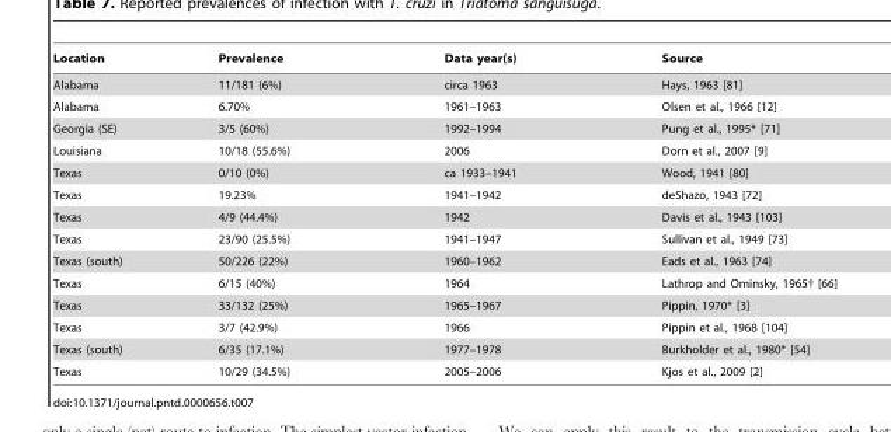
<table><thead><tr><td>Location</td><td>Prevalence</td><td>Data year(s)</td><td>Source</td></tr></thead><tbody><tr><td>Alabama</td><td>11/181 (6%)</td><td>circa 1963</td><td>Hays, 1963 [81]</td></tr><tr><td>Alabama</td><td>6.70%</td><td>1961–1963</td><td>Olsen et al., 1966 [12]</td></tr><tr><td>Georgia (SE)</td><td>3/5 (60%)</td><td>1992–1994</td><td>Pung et al., 1995* [71]</td></tr><tr><td>Louisiana</td><td>10/18 (55.6%)</td><td>2006</td><td>Dorn et al., 2007 [9]</td></tr><tr><td>Texas</td><td>0/10 (0%)</td><td>ca 1933–1941</td><td>Wood, 1941 [80]</td></tr><tr><td>Texas</td><td>19.23%</td><td>1941–1942</td><td>deShazo, 1943 [72]</td></tr><tr><td>Texas</td><td>4/9 (44.4%)</td><td>1942</td><td>Davis et al., 1943 [103]</td></tr><tr><td>Texas</td><td>23/90 (25.5%)</td><td>1941–1947</td><td>Sullivan et al., 1949 [73]</td></tr><tr><td>Texas (south)</td><td>50/226 (22%)</td><td>1960–1962</td><td>Eads et al., 1963 [74]</td></tr><tr><td>Texas</td><td>6/15 (40%)</td><td>1964</td><td>Lathrop and Ominsky, 1965{ [66]</td></tr><tr><td>Texas</td><td>33/132 (25%)</td><td>1965–1967</td><td>Pippin, 1970* [3]</td></tr><tr><td>Texas</td><td>3/7 (42.9%)</td><td>1966</td><td>Pippin et al., 1968 [104]</td></tr><tr><td>Texas (south)</td><td>6/35 (17.1%)</td><td>1977–1978</td><td>Burkholder et al., 1980* [54]</td></tr><tr><td>Texas</td><td>10/29 (34.5%)</td><td>2005–2006</td><td>Kjos et al., 2009 [2]</td></tr></tbody></table>